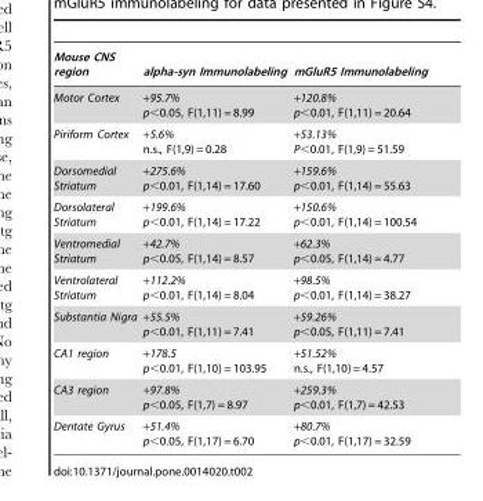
<table><thead><tr><td>Mouse CNS region</td><td>alpha-syn Immunolabeling</td><td>mGluR5 Immunolabeling</td></tr></thead><tbody><tr><td>Motor Cortex</td><td>+95.7% p&lt;0.05, F(1,11) = 8.99</td><td>+120.8% p&lt;0.01, F(1,11) = 20.64</td></tr><tr><td>Piriform Cortex</td><td>+5.6% n.s., F(1,9) = 0.28</td><td>+53.13% P&lt;0.01, F(1,9) = 51.59</td></tr><tr><td>Dorsomedial Striatum</td><td>+275.6% p&lt;0.01, F(1,14) = 17.60</td><td>+159.6% p&lt;0.01, F(1,14) = 55.63</td></tr><tr><td>Dorsolateral Striatum</td><td>+199.6% p&lt;0.01, F(1,14) = 17.22</td><td>+150.6% p&lt;0.01, F(1,14) = 100.54</td></tr><tr><td>Ventromedial Striatum</td><td>+42.7% p&lt;0.05, F(1,14) = 8.57</td><td>+62.3% p&lt;0.05, F(1,14) = 4.77</td></tr><tr><td>Ventrolateral Striatum</td><td>+112.2% p&lt;0.01, F(1,14) = 8.04</td><td>+98.5% p&lt;0.01, F(1,14) = 38.27</td></tr><tr><td>Substantia Nigra</td><td>+55.5% p&lt;0.01, F(1,11) = 7.41</td><td>+59.26% p&lt;0.05, F(1,11) = 7.41</td></tr><tr><td>CA1 region</td><td>+178.5 p&lt;0.01, F(1,10) = 103.95</td><td>+51.52% n.s., F(1,10) = 4.57</td></tr><tr><td>CA3 region</td><td>+97.8% p&lt;0.05, F(1,7) = 8.97</td><td>+259.3% p&lt;0.01, F(1,7) = 42.53</td></tr><tr><td>Dentate Gyrus</td><td>+51.4% p&lt;0.05, F(1,17) = 6.70</td><td>+80.7% p&lt;0.01, F(1,17) = 32.59</td></tr></tbody></table>